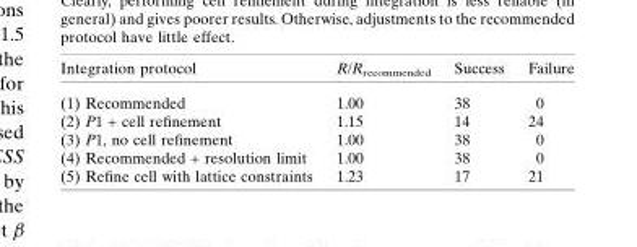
<table><thead><tr><td>Integration protocol</td><td>R/R<sub>recommended</sub></td><td>Success</td><td>Failure</td></tr></thead><tbody><tr><td>(1) Recommended</td><td>1.00</td><td>38</td><td>0</td></tr><tr><td>(2) P1 + cell refinement</td><td>1.15</td><td>14</td><td>24</td></tr><tr><td>(3) P1, no cell refinement</td><td>1.00</td><td>38</td><td>0</td></tr><tr><td>(4) Recommended + resolution limit</td><td>1.00</td><td>38</td><td>0</td></tr><tr><td>(5) Refine cell with lattice constraints</td><td>1.23</td><td>17</td><td>21</td></tr></tbody></table>